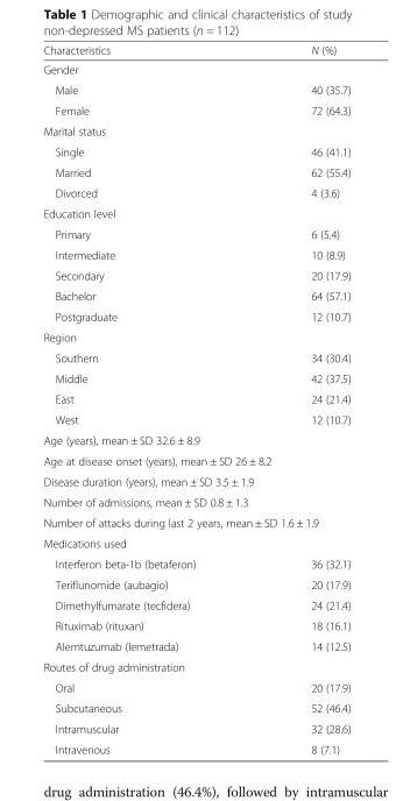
<table><thead><tr><td>Characteristics</td><td>N (%)</td></tr></thead><tbody><tr><td colspan="2">Gender</td></tr><tr><td>Male</td><td>40 (35.7)</td></tr><tr><td>Female</td><td>72 (64.3)</td></tr><tr><td colspan="2">Marital status</td></tr><tr><td>Single</td><td>46 (41.1)</td></tr><tr><td>Married</td><td>62 (55.4)</td></tr><tr><td>Divorced</td><td>4 (3.6)</td></tr><tr><td colspan="2">Education level</td></tr><tr><td>Primary</td><td>6 (5.4)</td></tr><tr><td>Intermediate</td><td>10 (8.9)</td></tr><tr><td>Secondary</td><td>20 (17.9)</td></tr><tr><td>Bachelor</td><td>64 (57.1)</td></tr><tr><td>Postgraduate</td><td>12 (10.7)</td></tr><tr><td colspan="2">Region</td></tr><tr><td>Southern</td><td>34 (30.4)</td></tr><tr><td>Middle</td><td>42 (37.5)</td></tr><tr><td>East</td><td>24 (21.4)</td></tr><tr><td>West</td><td>12 (10.7)</td></tr><tr><td colspan="2">Age (years), mean ± SD 32.6 ± 8.9</td></tr><tr><td colspan="2">Age at disease onset (years), mean ± SD 26 ± 8.2</td></tr><tr><td colspan="2">Disease duration (years), mean ± SD 3.5 ± 1.9</td></tr><tr><td colspan="2">Number of admissions, mean ± SD 0.8 ± 1.3</td></tr><tr><td colspan="2">Number of attacks during last 2 years, mean ± SD 1.6 ± 1.9</td></tr><tr><td colspan="2">Medications used</td></tr><tr><td>Interferon beta-1b (betaferon)</td><td>36 (32.1)</td></tr><tr><td>Teriflunomide (aubagio)</td><td>20 (17.9)</td></tr><tr><td>Dimethylfumarate (tecfidera)</td><td>24 (21.4)</td></tr><tr><td>Rituximab (rituxan)</td><td>18 (16.1)</td></tr><tr><td>Alemtuzumab (lemetrada)</td><td>14 (12.5)</td></tr><tr><td colspan="2">Routes of drug administration</td></tr><tr><td>Oral</td><td>20 (17.9)</td></tr><tr><td>Subcutaneous</td><td>52 (46.4)</td></tr><tr><td>Intramuscular</td><td>32 (28.6)</td></tr><tr><td>Intravenous</td><td>8 (7.1)</td></tr></tbody></table>